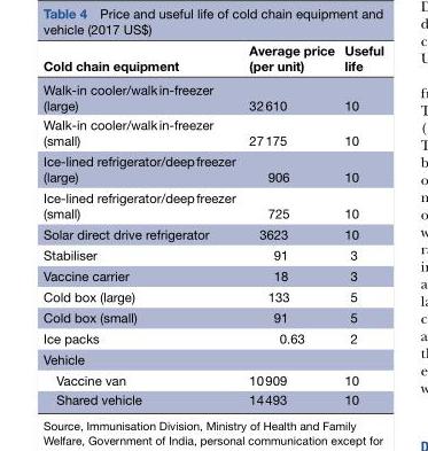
<table><thead><tr><td>Cold chain equipment</td><td>Average price (per unit)</td><td>Useful life</td></tr></thead><tbody><tr><td>Walk-in cooler/walk in-freezer (large)</td><td>32 610</td><td>10</td></tr><tr><td>Walk-in cooler/walk in-freezer (small)</td><td>27 175</td><td>10</td></tr><tr><td>Ice-lined refrigerator/deep freezer (large)</td><td>906</td><td>10</td></tr><tr><td>Ice-lined refrigerator/deep freezer (small)</td><td>725</td><td>10</td></tr><tr><td>Solar direct drive refrigerator</td><td>3623</td><td>10</td></tr><tr><td>Stabiliser</td><td>91</td><td>3</td></tr><tr><td>Vaccine carrier</td><td>18</td><td>3</td></tr><tr><td>Cold box (large)</td><td>133</td><td>5</td></tr><tr><td>Cold box (small)</td><td>91</td><td>5</td></tr><tr><td>Ice packs</td><td>0.63</td><td>2</td></tr><tr><td colspan="3">Vehicle</td></tr><tr><td>Vaccine van</td><td>10 909</td><td>10</td></tr><tr><td>Shared vehicle</td><td>14 493</td><td>10</td></tr></tbody></table>